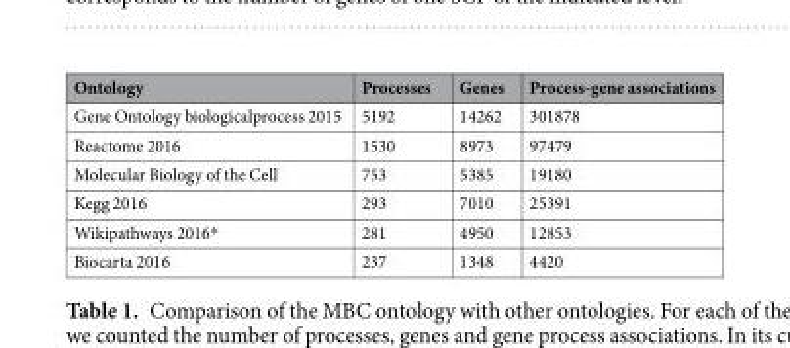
<table><thead><tr><td>Ontology</td><td>Processes</td><td>Genes</td><td>Process-gene associations</td></tr></thead><tbody><tr><td>Gene Ontology biologicalprocess 2015</td><td>5192</td><td>14262</td><td>301878</td></tr><tr><td>Reactome 2016</td><td>1530</td><td>8973</td><td>97479</td></tr><tr><td>Molecular Biology of the Cell</td><td>753</td><td>5385</td><td>19180</td></tr><tr><td>Kegg 2016</td><td>293</td><td>7010</td><td>25391</td></tr><tr><td>Wikipathways 2016*</td><td>281</td><td>4950</td><td>12853</td></tr><tr><td>Biocarta 2016</td><td>237</td><td>1348</td><td>4420</td></tr></tbody></table>